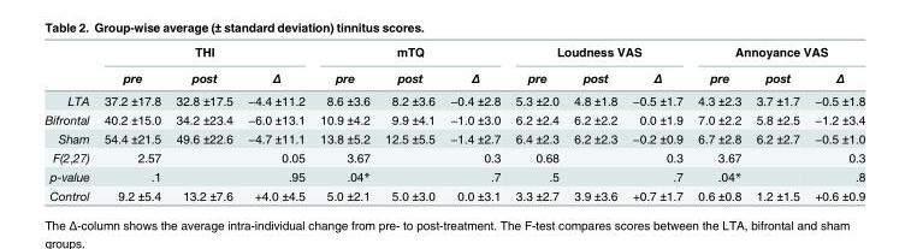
<table><thead><tr><td rowspan="2"></td><td colspan="3">THI</td><td colspan="3">mTQ</td><td colspan="3">Loudness VAS</td><td colspan="3">Annoyance VAS</td></tr><tr><td>pre</td><td>post</td><td>Δ</td><td>pre</td><td>post</td><td>Δ</td><td>pre</td><td>post</td><td>Δ</td><td>pre</td><td>post</td><td>Δ</td></tr></thead><tbody><tr><td>LTA</td><td>37.2 ±17.8</td><td>32.8 ±17.5</td><td>−4.4 ±11.2</td><td>8.6 ±3.6</td><td>8.2 ±3.6</td><td>−0.4 ±2.8</td><td>5.3 ±2.0</td><td>4.8 ±1.8</td><td>−0.5 ±1.7</td><td>4.3 ±2.3</td><td>3.7 ±1.7</td><td>−0.5 ±1.8</td></tr><tr><td>Bifrontal</td><td>40.2 ±15.0</td><td>34.2 ±23.4</td><td>−6.0 ±13.1</td><td>10.9 ±4.2</td><td>9.9 ±4.1</td><td>−1.0 ±3.0</td><td>6.2 ±2.4</td><td>6.2 ±2.2</td><td>0.0 ±1.9</td><td>7.0 ±2.2</td><td>5.8 ±2.5</td><td>−1.2 ±3.4</td></tr><tr><td>Sham</td><td>54.4 ±21.5</td><td>49.6 ±22.6</td><td>−4.7 ±11.1</td><td>13.8 ±5.2</td><td>12.5 ±5.5</td><td>−1.4 ±2.7</td><td>6.4 ±2.3</td><td>6.2 ±2.3</td><td>−0.2 ±0.9</td><td>6.7 ±2.8</td><td>6.2 ±2.7</td><td>−0.5 ±1.0</td></tr><tr><td>F(2,27)</td><td>2.57</td><td></td><td>0.05</td><td>3.67</td><td></td><td>0.3</td><td>0.68</td><td></td><td>0.3</td><td>3.67</td><td></td><td>0.3</td></tr><tr><td>p-value</td><td>.1</td><td></td><td>.95</td><td>.04*</td><td></td><td>.7</td><td>.5</td><td></td><td>.7</td><td>.04*</td><td></td><td>.8</td></tr><tr><td>Control</td><td>9.2 ±5.4</td><td>13.2 ±7.6</td><td>+4.0 ±4.5</td><td>5.0 ±2.1</td><td>5.0 ±3.0</td><td>0.0 ±3.1</td><td>3.3 ±2.7</td><td>3.9 ±3.6</td><td>+0.7 ±1.7</td><td>0.6 ±0.8</td><td>1.2 ±1.5</td><td>+0.6 ±0.9</td></tr></tbody></table>